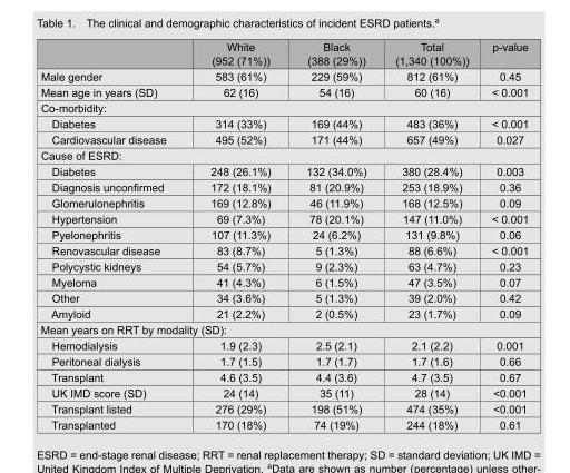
<table><thead><tr><td></td><td>White (952 (71%))</td><td>Black (388 (29%))</td><td>Total (1,340 (100%))</td><td>p-value</td></tr></thead><tbody><tr><td>Male gender</td><td>583 (61%)</td><td>229 (59%)</td><td>812 (61%)</td><td>0.45</td></tr><tr><td>Mean age in years (SD)</td><td>62 (16)</td><td>54 (16)</td><td>60 (16)</td><td>&lt; 0.001</td></tr><tr><td colspan="5">Co-morbidity:</td></tr><tr><td>Diabetes</td><td>314 (33%)</td><td>169 (44%)</td><td>483 (36%)</td><td>&lt; 0.001</td></tr><tr><td>Cardiovascular disease</td><td>495 (52%)</td><td>171 (44%)</td><td>657 (49%)</td><td>0.027</td></tr><tr><td colspan="5">Cause of ESRD:</td></tr><tr><td>Diabetes</td><td>248 (26.1%)</td><td>132 (34.0%)</td><td>380 (28.4%)</td><td>0.003</td></tr><tr><td>Diagnosis unconfirmed</td><td>172 (18.1%)</td><td>81 (20.9%)</td><td>253 (18.9%)</td><td>0.36</td></tr><tr><td>Glomerulonephritis</td><td>169 (12.8%)</td><td>46 (11.9%)</td><td>168 (12.5%)</td><td>0.09</td></tr><tr><td>Hypertension</td><td>69 (7.3%)</td><td>78 (20.1%)</td><td>147 (11.0%)</td><td>&lt; 0.001</td></tr><tr><td>Pyelonephritis</td><td>107 (11.3%)</td><td>24 (6.2%)</td><td>131 (9.8%)</td><td>0.06</td></tr><tr><td>Renovascular disease</td><td>83 (8.7%)</td><td>5 (1.3%)</td><td>88 (6.6%)</td><td>&lt; 0.001</td></tr><tr><td>Polycystic kidneys</td><td>54 (5.7%)</td><td>9 (2.3%)</td><td>63 (4.7%)</td><td>0.23</td></tr><tr><td>Myeloma</td><td>41 (4.3%)</td><td>6 (1.5%)</td><td>47 (3.5%)</td><td>0.07</td></tr><tr><td>Other</td><td>34 (3.6%)</td><td>5 (1.3%)</td><td>39 (2.0%)</td><td>0.42</td></tr><tr><td>Amyloid</td><td>21 (2.2%)</td><td>2 (0.5%)</td><td>23 (1.7%)</td><td>0.09</td></tr><tr><td colspan="5">Mean years on RRT by modality (SD):</td></tr><tr><td>Hemodialysis</td><td>1.9 (2.3)</td><td>2.5 (2.1)</td><td>2.1 (2.2)</td><td>0.001</td></tr><tr><td>Peritoneal dialysis</td><td>1.7 (1.5)</td><td>1.7 (1.7)</td><td>1.7 (1.6)</td><td>0.66</td></tr><tr><td>Transplant</td><td>4.6 (3.5)</td><td>4.4 (3.6)</td><td>4.7 (3.5)</td><td>0.67</td></tr><tr><td>UK IMD score (SD)</td><td>24 (14)</td><td>35 (11)</td><td>28 (14)</td><td>&lt;0.001</td></tr><tr><td>Transplant listed</td><td>276 (29%)</td><td>198 (51%)</td><td>474 (35%)</td><td>&lt;0.001</td></tr><tr><td>Transplanted</td><td>170 (18%)</td><td>74 (19%)</td><td>244 (18%)</td><td>0.61</td></tr></tbody></table>